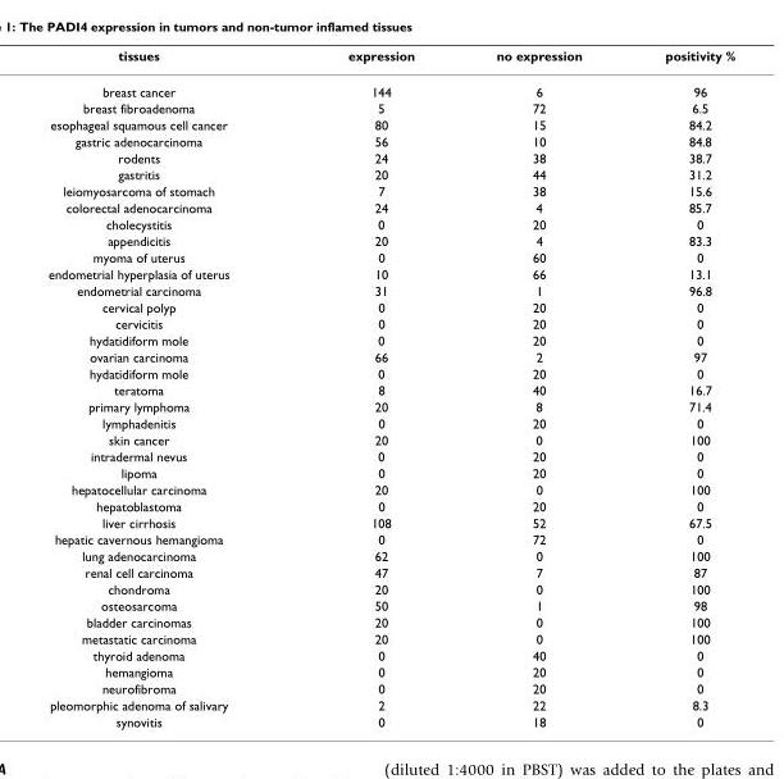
<table><thead><tr><td>tissues</td><td>expression</td><td>no expression</td><td>positivity %</td></tr></thead><tbody><tr><td>breast cancer</td><td>144</td><td>6</td><td>96</td></tr><tr><td>breast fibroadenoma</td><td>5</td><td>72</td><td>6.5</td></tr><tr><td>esophageal squamous cell cancer</td><td>80</td><td>15</td><td>84.2</td></tr><tr><td>gastric adenocarcinoma</td><td>56</td><td>10</td><td>84.8</td></tr><tr><td>rodents</td><td>24</td><td>38</td><td>38.7</td></tr><tr><td>gastritis</td><td>20</td><td>44</td><td>31.2</td></tr><tr><td>leiomyosarcoma of stomach</td><td>7</td><td>38</td><td>15.6</td></tr><tr><td>colorectal adenocarcinoma</td><td>24</td><td>4</td><td>85.7</td></tr><tr><td>cholecystitis</td><td>0</td><td>20</td><td>0</td></tr><tr><td>appendicitis</td><td>20</td><td>4</td><td>83.3</td></tr><tr><td>myoma of uterus</td><td>0</td><td>60</td><td>0</td></tr><tr><td>endometrial hyperplasia of uterus</td><td>10</td><td>66</td><td>13.1</td></tr><tr><td>endometrial carcinoma</td><td>31</td><td>1</td><td>96.8</td></tr><tr><td>cervical polyp</td><td>0</td><td>20</td><td>0</td></tr><tr><td>cervicitis</td><td>0</td><td>20</td><td>0</td></tr><tr><td>hydatidiform mole</td><td>0</td><td>20</td><td>0</td></tr><tr><td>ovarian carcinoma</td><td>66</td><td>2</td><td>97</td></tr><tr><td>hydatidiform mole</td><td>0</td><td>20</td><td>0</td></tr><tr><td>teratoma</td><td>8</td><td>40</td><td>16.7</td></tr><tr><td>primary lymphoma</td><td>20</td><td>8</td><td>71.4</td></tr><tr><td>lymphadenitis</td><td>0</td><td>20</td><td>0</td></tr><tr><td>skin cancer</td><td>20</td><td>0</td><td>100</td></tr><tr><td>intradermal nevus</td><td>0</td><td>20</td><td>0</td></tr><tr><td>lipoma</td><td>0</td><td>20</td><td>0</td></tr><tr><td>hepatocellular carcinoma</td><td>20</td><td>0</td><td>100</td></tr><tr><td>hepatoblastoma</td><td>0</td><td>20</td><td>0</td></tr><tr><td>liver cirrhosis</td><td>108</td><td>52</td><td>67.5</td></tr><tr><td>hepatic cavernous hemangioma</td><td>0</td><td>72</td><td>0</td></tr><tr><td>lung adenocarcinoma</td><td>62</td><td>0</td><td>100</td></tr><tr><td>renal cell carcinoma</td><td>47</td><td>7</td><td>87</td></tr><tr><td>chondroma</td><td>20</td><td>0</td><td>100</td></tr><tr><td>osteosarcoma</td><td>50</td><td>1</td><td>98</td></tr><tr><td>bladder carcinomas</td><td>20</td><td>0</td><td>100</td></tr><tr><td>metastatic carcinoma</td><td>20</td><td>0</td><td>100</td></tr><tr><td>thyroid adenoma</td><td>0</td><td>40</td><td>0</td></tr><tr><td>hemangioma</td><td>0</td><td>20</td><td>0</td></tr><tr><td>neurofibroma</td><td>0</td><td>20</td><td>0</td></tr><tr><td>pleomorphic adenoma of salivary</td><td>2</td><td>22</td><td>8.3</td></tr><tr><td>synovitis</td><td>0</td><td>18</td><td>0</td></tr></tbody></table>